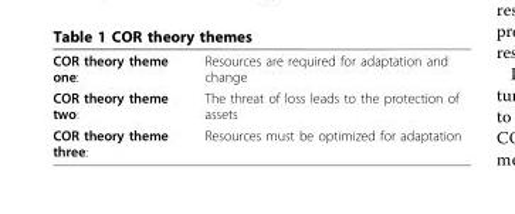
<table><tbody><tr><td>COR theory theme one:</td><td>Resources are required for adaptation and change</td></tr><tr><td>COR theory theme two:</td><td>The threat of loss leads to the protection of assets</td></tr><tr><td>COR theory theme three:</td><td>Resources must be optimized for adaptation</td></tr></tbody></table>